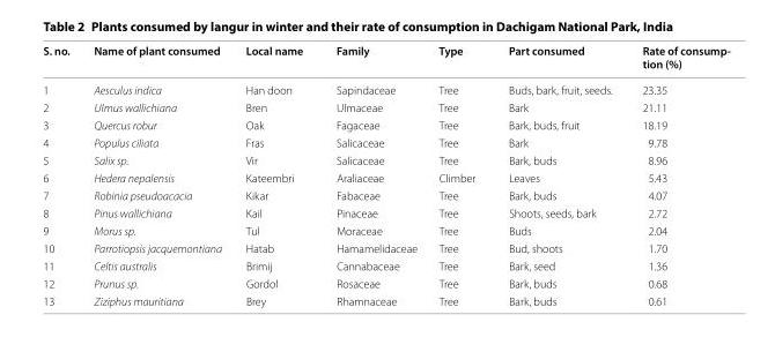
<table><thead><tr><td>S. no.</td><td>Name of plant consumed</td><td>Local name</td><td>Family</td><td>Type</td><td>Part consumed</td><td>Rate of consump- tion (%)</td></tr></thead><tbody><tr><td>1</td><td>Aesculus indica</td><td>Han doon</td><td>Sapindaceae</td><td>Tree</td><td>Buds, bark, fruit, seeds.</td><td>23.35</td></tr><tr><td>2</td><td>Ulmus wallichiana</td><td>Bren</td><td>Ulmaceae</td><td>Tree</td><td>Bark</td><td>21.11</td></tr><tr><td>3</td><td>Quercus robur</td><td>Oak</td><td>Fagaceae</td><td>Tree</td><td>Bark, buds, fruit</td><td>18.19</td></tr><tr><td>4</td><td>Populus ciliata</td><td>Fras</td><td>Salicaceae</td><td>Tree</td><td>Bark</td><td>9.78</td></tr><tr><td>5</td><td>Salix sp.</td><td>Vir</td><td>Salicaceae</td><td>Tree</td><td>Bark, buds</td><td>8.96</td></tr><tr><td>6</td><td>Hedera nepalensis</td><td>Kateembri</td><td>Araliaceae</td><td>Climber</td><td>Leaves</td><td>5.43</td></tr><tr><td>7</td><td>Robinia pseudoacacia</td><td>Kikar</td><td>Fabaceae</td><td>Tree</td><td>Bark, buds</td><td>4.07</td></tr><tr><td>8</td><td>Pinus wallichiana</td><td>Kail</td><td>Pinaceae</td><td>Tree</td><td>Shoots, seeds, bark</td><td>2.72</td></tr><tr><td>9</td><td>Morus sp.</td><td>Tul</td><td>Moraceae</td><td>Tree</td><td>Buds</td><td>2.04</td></tr><tr><td>10</td><td>Parrotiopsis jacquemontiana</td><td>Hatab</td><td>Hamamelidaceae</td><td>Tree</td><td>Bud, shoots</td><td>1.70</td></tr><tr><td>11</td><td>Celtis australis</td><td>Brimij</td><td>Cannabaceae</td><td>Tree</td><td>Bark, seed</td><td>1.36</td></tr><tr><td>12</td><td>Prunus sp.</td><td>Gordol</td><td>Rosaceae</td><td>Tree</td><td>Bark, buds</td><td>0.68</td></tr><tr><td>13</td><td>Ziziphus mauritiana</td><td>Brey</td><td>Rhamnaceae</td><td>Tree</td><td>Bark, buds</td><td>0.61</td></tr></tbody></table>